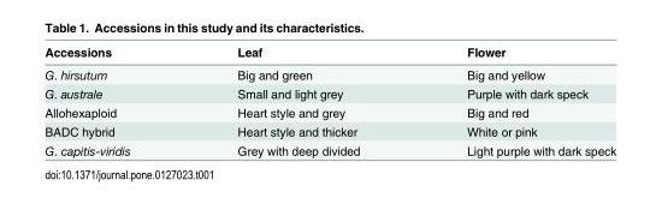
<table><thead><tr><td>Accessions</td><td>Leaf</td><td>Flower</td></tr></thead><tbody><tr><td>G. hirsutum</td><td>Big and green</td><td>Big and yellow</td></tr><tr><td>G. australe</td><td>Small and light grey</td><td>Purple with dark speck</td></tr><tr><td>Allohexaploid</td><td>Heart style and grey</td><td>Big and red</td></tr><tr><td>BADC hybrid</td><td>Heart style and thicker</td><td>White or pink</td></tr><tr><td>G. capitis-viridis</td><td>Grey with deep divided</td><td>Light purple with dark speck</td></tr></tbody></table>